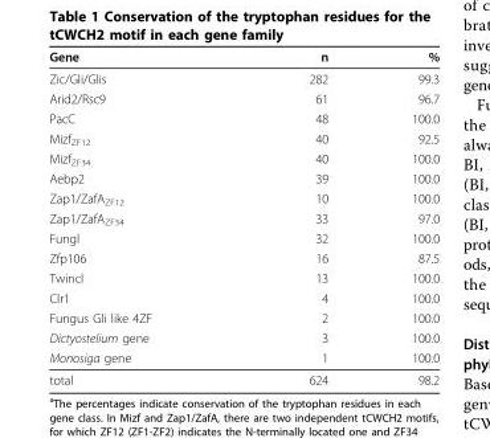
<table><thead><tr><td>Gene</td><td>n</td><td>%</td></tr></thead><tbody><tr><td>Zic/Gli/Glis</td><td>282</td><td>99.3</td></tr><tr><td>Arid2/Rsc9</td><td>61</td><td>96.7</td></tr><tr><td>PacC</td><td>48</td><td>100.0</td></tr><tr><td>Mizf<sub>ZF12</sub></td><td>40</td><td>92.5</td></tr><tr><td>Mizf<sub>ZF34</sub></td><td>40</td><td>100.0</td></tr><tr><td>Aebp2</td><td>39</td><td>100.0</td></tr><tr><td>Zap1/ZafA<sub>ZF12</sub></td><td>10</td><td>100.0</td></tr><tr><td>Zap1/ZafA<sub>ZF34</sub></td><td>33</td><td>97.0</td></tr><tr><td>Fungl</td><td>32</td><td>100.0</td></tr><tr><td>Zfp106</td><td>16</td><td>87.5</td></tr><tr><td>Twincl</td><td>13</td><td>100.0</td></tr><tr><td>Clr1</td><td>4</td><td>100.0</td></tr><tr><td>Fungus Gli like 4ZF</td><td>2</td><td>100.0</td></tr><tr><td>Dictyostelium gene</td><td>3</td><td>100.0</td></tr><tr><td>Monosiga gene</td><td>1</td><td>100.0</td></tr><tr><td>total</td><td>624</td><td>98.2</td></tr></tbody></table>